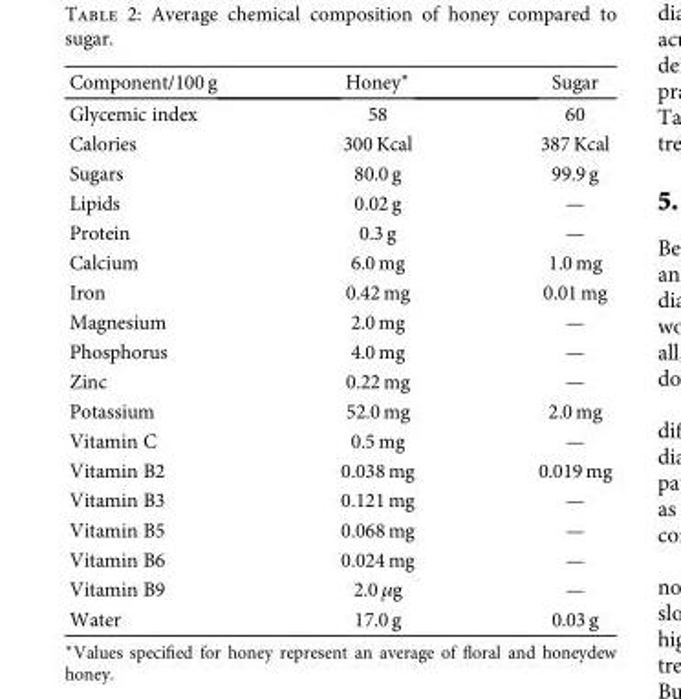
<table><thead><tr><td>Component/100 g</td><td>Honey∗</td><td>Sugar</td></tr></thead><tbody><tr><td>Glycemic index</td><td>58</td><td>60</td></tr><tr><td>Calories</td><td>300 Kcal</td><td>387 Kcal</td></tr><tr><td>Sugars</td><td>80.0 g</td><td>99.9 g</td></tr><tr><td>Lipids</td><td>0.02 g</td><td>—</td></tr><tr><td>Protein</td><td>0.3 g</td><td>—</td></tr><tr><td>Calcium</td><td>6.0 mg</td><td>1.0 mg</td></tr><tr><td>Iron</td><td>0.42 mg</td><td>0.01 mg</td></tr><tr><td>Magnesium</td><td>2.0 mg</td><td>—</td></tr><tr><td>Phosphorus</td><td>4.0 mg</td><td>—</td></tr><tr><td>Zinc</td><td>0.22 mg</td><td>—</td></tr><tr><td>Potassium</td><td>52.0 mg</td><td>2.0 mg</td></tr><tr><td>Vitamin C</td><td>0.5 mg</td><td>—</td></tr><tr><td>Vitamin B2</td><td>0.038 mg</td><td>0.019 mg</td></tr><tr><td>Vitamin B3</td><td>0.121 mg</td><td>—</td></tr><tr><td>Vitamin B5</td><td>0.068 mg</td><td>—</td></tr><tr><td>Vitamin B6</td><td>0.024 mg</td><td>—</td></tr><tr><td>Vitamin B9</td><td>2.0 μg</td><td>—</td></tr><tr><td>Water</td><td>17.0 g</td><td>0.03 g</td></tr></tbody></table>